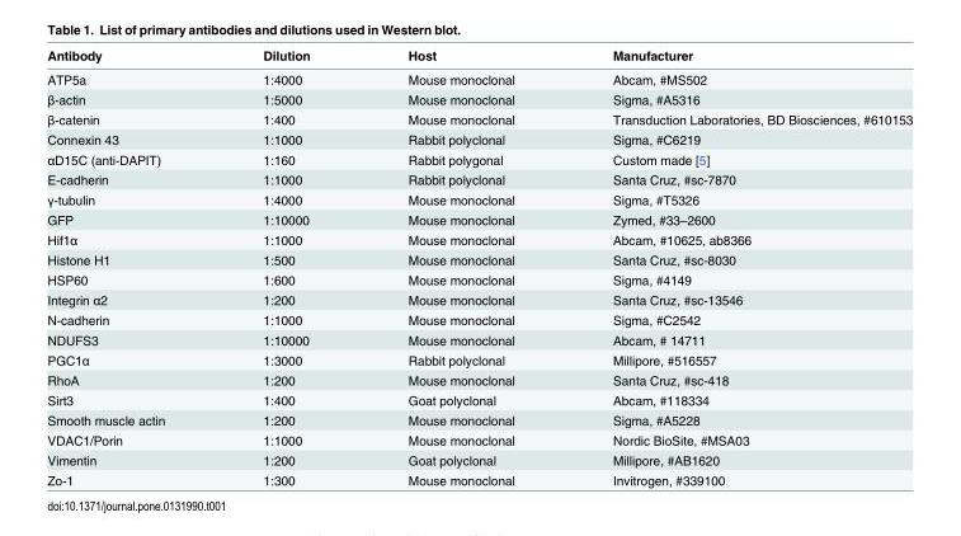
<table><thead><tr><td>Antibody</td><td>Dilution</td><td>Host</td><td>Manufacturer</td></tr></thead><tbody><tr><td>ATP5a</td><td>1:4000</td><td>Mouse monoclonal</td><td>Abcam, #MS502</td></tr><tr><td>β-actin</td><td>1:5000</td><td>Mouse monoclonal</td><td>Sigma, #A5316</td></tr><tr><td>β-catenin</td><td>1:400</td><td>Mouse monoclonal</td><td>Transduction Laboratories, BD Biosciences, #610153</td></tr><tr><td>Connexin 43</td><td>1:1000</td><td>Rabbit polyclonal</td><td>Sigma, #C6219</td></tr><tr><td>αD15C (anti-DAPIT)</td><td>1:160</td><td>Rabbit polygonal</td><td>Custom made [5]</td></tr><tr><td>E-cadherin</td><td>1:1000</td><td>Rabbit polyclonal</td><td>Santa Cruz, #sc-7870</td></tr><tr><td>γ-tubulin</td><td>1:4000</td><td>Mouse monoclonal</td><td>Sigma, #T5326</td></tr><tr><td>GFP</td><td>1:10000</td><td>Mouse monoclonal</td><td>Zymed, #33–2600</td></tr><tr><td>Hif1α</td><td>1:1000</td><td>Mouse monoclonal</td><td>Abcam, #10625, ab8366</td></tr><tr><td>Histone H1</td><td>1:500</td><td>Mouse monoclonal</td><td>Santa Cruz, #sc-8030</td></tr><tr><td>HSP60</td><td>1:600</td><td>Mouse monoclonal</td><td>Sigma, #4149</td></tr><tr><td>Integrin α2</td><td>1:200</td><td>Mouse monoclonal</td><td>Santa Cruz, #sc-13546</td></tr><tr><td>N-cadherin</td><td>1:1000</td><td>Mouse monoclonal</td><td>Sigma, #C2542</td></tr><tr><td>NDUFS3</td><td>1:10000</td><td>Mouse monoclonal</td><td>Abcam, # 14711</td></tr><tr><td>PGC1α</td><td>1:3000</td><td>Rabbit polyclonal</td><td>Millipore, #516557</td></tr><tr><td>RhoA</td><td>1:200</td><td>Mouse monoclonal</td><td>Santa Cruz, #sc-418</td></tr><tr><td>Sirt3</td><td>1:400</td><td>Goat polyclonal</td><td>Abcam, #118334</td></tr><tr><td>Smooth muscle actin</td><td>1:200</td><td>Mouse monoclonal</td><td>Sigma, #A5228</td></tr><tr><td>VDAC1/Porin</td><td>1:1000</td><td>Mouse monoclonal</td><td>Nordic BioSite, #MSA03</td></tr><tr><td>Vimentin</td><td>1:200</td><td>Goat polyclonal</td><td>Millipore, #AB1620</td></tr><tr><td>Zo-1</td><td>1:300</td><td>Mouse monoclonal</td><td>Invitrogen, #339100</td></tr></tbody></table>